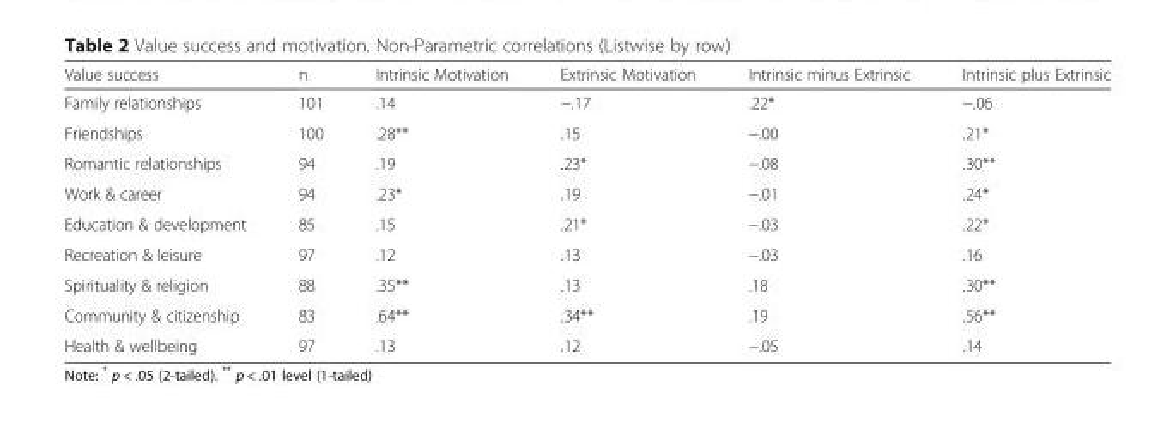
<table><thead><tr><td>Value success</td><td>n</td><td>Intrinsic Motivation</td><td>Extrinsic Motivation</td><td>Intrinsic minus Extrinsic</td><td>Intrinsic plus Extrinsic</td></tr></thead><tbody><tr><td>Family relationships</td><td>101</td><td>.14</td><td>−.17</td><td>.22*</td><td>−.06</td></tr><tr><td>Friendships</td><td>100</td><td>.28**</td><td>.15</td><td>−.00</td><td>.21*</td></tr><tr><td>Romantic relationships</td><td>94</td><td>.19</td><td>.23*</td><td>−.08</td><td>.30**</td></tr><tr><td>Work &amp; career</td><td>94</td><td>.23*</td><td>.19</td><td>−.01</td><td>.24*</td></tr><tr><td>Education &amp; development</td><td>85</td><td>.15</td><td>.21*</td><td>−.03</td><td>.22*</td></tr><tr><td>Recreation &amp; leisure</td><td>97</td><td>.12</td><td>.13</td><td>−.03</td><td>.16</td></tr><tr><td>Spirituality &amp; religion</td><td>88</td><td>.35**</td><td>.13</td><td>.18</td><td>.30**</td></tr><tr><td>Community &amp; citizenship</td><td>83</td><td>.64**</td><td>.34**</td><td>.19</td><td>.56**</td></tr><tr><td>Health &amp; wellbeing</td><td>97</td><td>.13</td><td>.12</td><td>−.05</td><td>.14</td></tr></tbody></table>